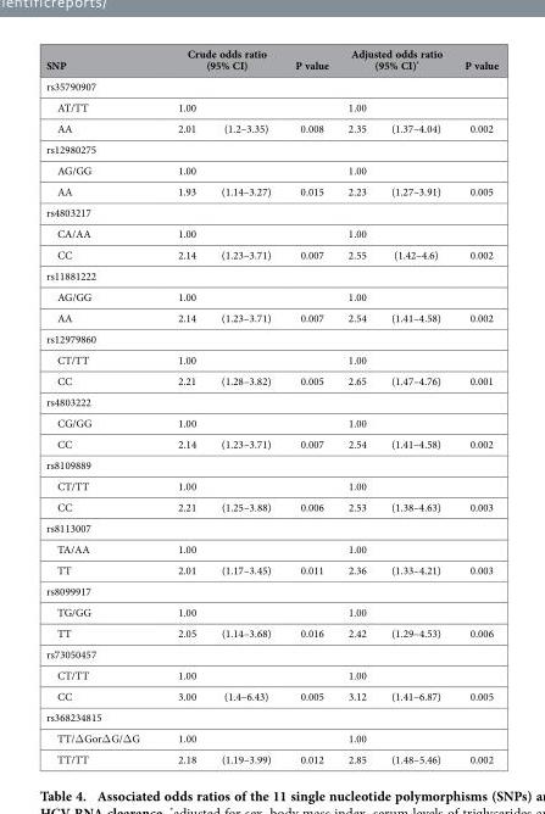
<table><thead><tr><td>SNP</td><td colspan="2">Crude odds ratio (95% CI)</td><td>P value</td><td colspan="2">Adjusted odds ratio (95% CI)*</td><td>P value</td></tr><tr><td colspan="7">rs35790907</td></tr><tr><td>AT/TT</td><td>1.00</td><td></td><td></td><td>1.00</td><td></td><td></td></tr></thead><tbody><tr><td>AA</td><td>2.01</td><td>(1.2–3.35)</td><td>0.008</td><td>2.35</td><td>(1.37–4.04)</td><td>0.002</td></tr><tr><td colspan="7">rs12980275</td></tr><tr><td>AG/GG</td><td>1.00</td><td></td><td></td><td>1.00</td><td></td><td></td></tr><tr><td>AA</td><td>1.93</td><td>(1.14–3.27)</td><td>0.015</td><td>2.23</td><td>(1.27–3.91)</td><td>0.005</td></tr><tr><td colspan="7">rs4803217</td></tr><tr><td>CA/AA</td><td>1.00</td><td></td><td></td><td>1.00</td><td></td><td></td></tr><tr><td>CC</td><td>2.14</td><td>(1.23–3.71)</td><td>0.007</td><td>2.55</td><td>(1.42–4.6)</td><td>0.002</td></tr><tr><td colspan="7">rs11881222</td></tr><tr><td>AG/GG</td><td>1.00</td><td></td><td></td><td>1.00</td><td></td><td></td></tr><tr><td>AA</td><td>2.14</td><td>(1.23–3.71)</td><td>0.007</td><td>2.54</td><td>(1.41–4.58)</td><td>0.002</td></tr><tr><td colspan="7">rs12979860</td></tr><tr><td>CT/TT</td><td>1.00</td><td></td><td></td><td>1.00</td><td></td><td></td></tr><tr><td>CC</td><td>2.21</td><td>(1.28–3.82)</td><td>0.005</td><td>2.65</td><td>(1.47–4.76)</td><td>0.001</td></tr><tr><td colspan="7">rs4803222</td></tr><tr><td>CG/GG</td><td>1.00</td><td></td><td></td><td>1.00</td><td></td><td></td></tr><tr><td>CC</td><td>2.14</td><td>(1.23–3.71)</td><td>0.007</td><td>2.54</td><td>(1.41–4.58)</td><td>0.002</td></tr><tr><td colspan="7">rs8109889</td></tr><tr><td>CT/TT</td><td>1.00</td><td></td><td></td><td>1.00</td><td></td><td></td></tr><tr><td>CC</td><td>2.21</td><td>(1.25–3.88)</td><td>0.006</td><td>2.53</td><td>(1.38–4.63)</td><td>0.003</td></tr><tr><td colspan="7">rs8113007</td></tr><tr><td>TA/AA</td><td>1.00</td><td></td><td></td><td>1.00</td><td></td><td></td></tr><tr><td>TT</td><td>2.01</td><td>(1.17–3.45)</td><td>0.011</td><td>2.36</td><td>(1.33–4.21)</td><td>0.003</td></tr><tr><td colspan="7">rs8099917</td></tr><tr><td>TG/GG</td><td>1.00</td><td></td><td></td><td>1.00</td><td></td><td></td></tr><tr><td>TT</td><td>2.05</td><td>(1.14–3.68)</td><td>0.016</td><td>2.42</td><td>(1.29–4.53)</td><td>0.006</td></tr><tr><td colspan="7">rs73050457</td></tr><tr><td>CT/TT</td><td>1.00</td><td></td><td></td><td>1.00</td><td></td><td></td></tr><tr><td>CC</td><td>3.00</td><td>(1.4–6.43)</td><td>0.005</td><td>3.12</td><td>(1.41–6.87)</td><td>0.005</td></tr><tr><td colspan="7">rs368234815</td></tr><tr><td>TT/Δ GorΔ G/Δ G</td><td>1.00</td><td></td><td></td><td>1.00</td><td></td><td></td></tr><tr><td>TT/TT</td><td>2.18</td><td>(1.19–3.99)</td><td>0.012</td><td>2.85</td><td>(1.48–5.46)</td><td>0.002</td></tr></tbody></table>